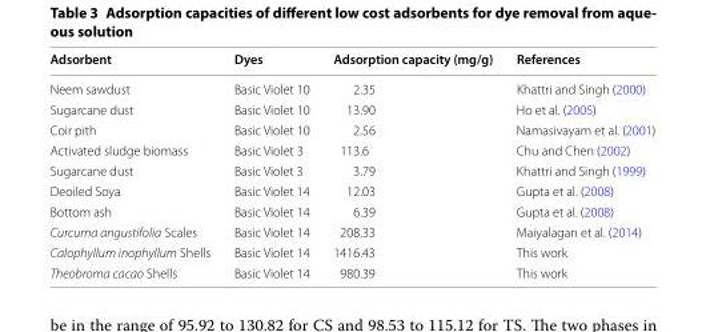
<table><thead><tr><td>Adsorbent</td><td>Dyes</td><td>Adsorption capacity (mg/g)</td><td>References</td></tr></thead><tbody><tr><td>Neem sawdust</td><td>Basic Violet 10</td><td>2.35</td><td>Khattri and Singh (2000)</td></tr><tr><td>Sugarcane dust</td><td>Basic Violet 10</td><td>13.90</td><td>Ho et al. (2005)</td></tr><tr><td>Coir pith</td><td>Basic Violet 10</td><td>2.56</td><td>Namasivayam et al. (2001)</td></tr><tr><td>Activated sludge biomass</td><td>Basic Violet 3</td><td>113.6</td><td>Chu and Chen (2002)</td></tr><tr><td>Sugarcane dust</td><td>Basic Violet 3</td><td>3.79</td><td>Khattri and Singh (1999)</td></tr><tr><td>Deoiled Soya</td><td>Basic Violet 14</td><td>12.03</td><td>Gupta et al. (2008)</td></tr><tr><td>Bottom ash</td><td>Basic Violet 14</td><td>6.39</td><td>Gupta et al. (2008)</td></tr><tr><td>Curcuma angustifolia Scales</td><td>Basic Violet 14</td><td>208.33</td><td>Maiyalagan et al. (2014)</td></tr><tr><td>Calophyllum inophyllum Shells</td><td>Basic Violet 14</td><td>1416.43</td><td>This work</td></tr><tr><td>Theobroma cacao Shells</td><td>Basic Violet 14</td><td>980.39</td><td>This work</td></tr></tbody></table>